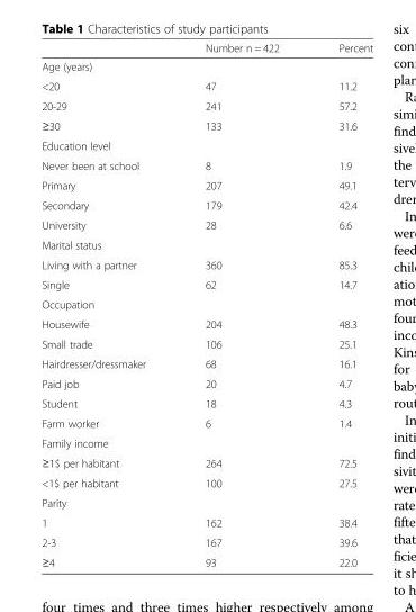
<table><thead><tr><td></td><td>Number n = 422</td><td>Percent</td></tr></thead><tbody><tr><td colspan="3">Age (years)</td></tr><tr><td>&lt;20</td><td>47</td><td>11.2</td></tr><tr><td>20-29</td><td>241</td><td>57.2</td></tr><tr><td>≥30</td><td>133</td><td>31.6</td></tr><tr><td colspan="3">Education level</td></tr><tr><td>Never been at school</td><td>8</td><td>1.9</td></tr><tr><td>Primary</td><td>207</td><td>49.1</td></tr><tr><td>Secondary</td><td>179</td><td>42.4</td></tr><tr><td>University</td><td>28</td><td>6.6</td></tr><tr><td colspan="3">Marital status</td></tr><tr><td>Living with a partner</td><td>360</td><td>85.3</td></tr><tr><td>Single</td><td>62</td><td>14.7</td></tr><tr><td colspan="3">Occupation</td></tr><tr><td>Housewife</td><td>204</td><td>48.3</td></tr><tr><td>Small trade</td><td>106</td><td>25.1</td></tr><tr><td>Hairdresser/dressmaker</td><td>68</td><td>16.1</td></tr><tr><td>Paid job</td><td>20</td><td>4.7</td></tr><tr><td>Student</td><td>18</td><td>4.3</td></tr><tr><td>Farm worker</td><td>6</td><td>1.4</td></tr><tr><td colspan="3">Family income</td></tr><tr><td>≥1$ per habitant</td><td>264</td><td>72.5</td></tr><tr><td>&lt;1$ per habitant</td><td>100</td><td>27.5</td></tr><tr><td colspan="3">Parity</td></tr><tr><td>1</td><td>162</td><td>38.4</td></tr><tr><td>2-3</td><td>167</td><td>39.6</td></tr><tr><td>≥4</td><td>93</td><td>22.0</td></tr></tbody></table>